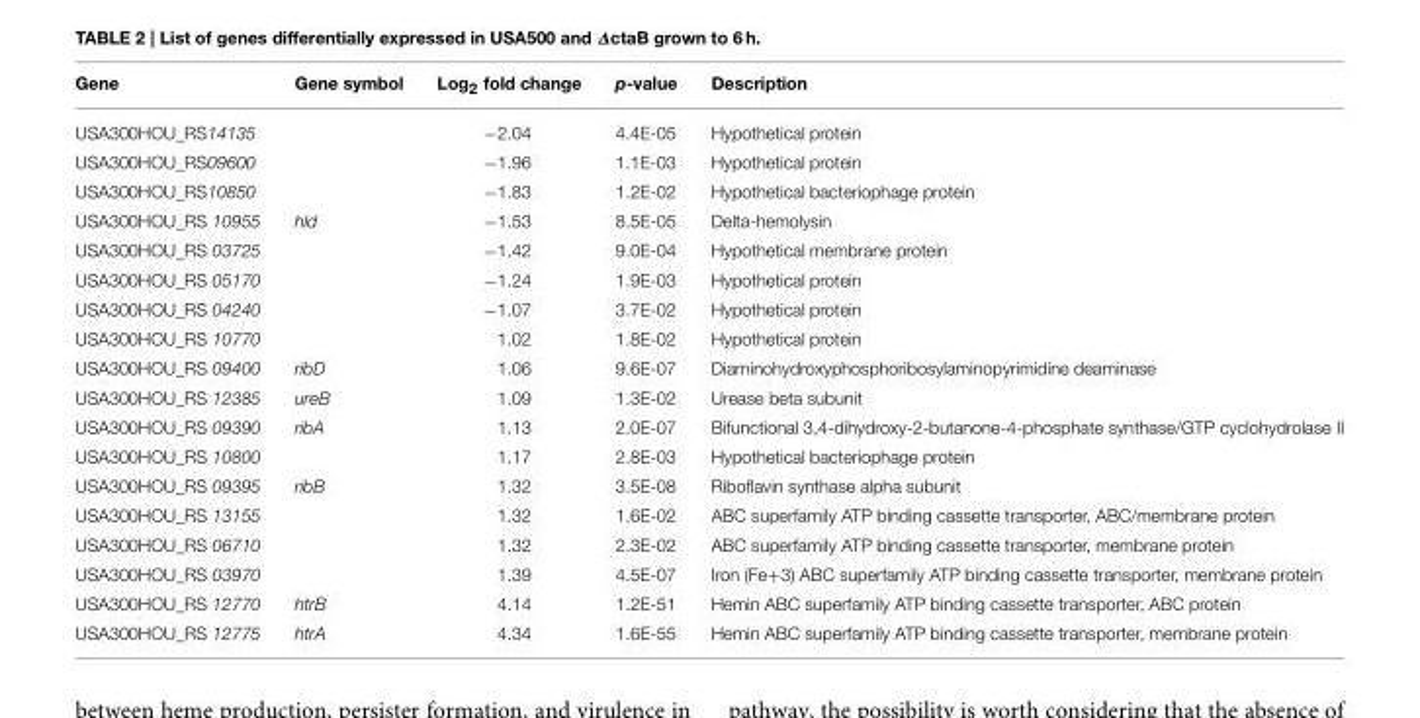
<table><thead><tr><td>Gene</td><td>Gene symbol</td><td>Log<sub>2</sub> fold change</td><td>p-value</td><td>Description</td></tr></thead><tbody><tr><td>USA300HOU_RS14135</td><td></td><td>−2.04</td><td>4.4E-05</td><td>Hypothetical protein</td></tr><tr><td>USA300HOU_RS09600</td><td></td><td>−1.96</td><td>1.1E-03</td><td>Hypothetical protein</td></tr><tr><td>USA300HOU_RS10850</td><td></td><td>−1.83</td><td>1.2E-02</td><td>Hypothetical bacteriophage protein</td></tr><tr><td>USA300HOU_RS 10955</td><td>hld</td><td>−1.53</td><td>8.5E-05</td><td>Delta-hemolysin</td></tr><tr><td>USA300HOU_RS 03725</td><td></td><td>−1.42</td><td>9.0E-04</td><td>Hypothetical membrane protein</td></tr><tr><td>USA300HOU_RS 05170</td><td></td><td>−1.24</td><td>1.9E-03</td><td>Hypothetical protein</td></tr><tr><td>USA300HOU_RS 04240</td><td></td><td>−1.07</td><td>3.7E-02</td><td>Hypothetical protein</td></tr><tr><td>USA300HOU_RS 10770</td><td></td><td>1.02</td><td>1.8E-02</td><td>Hypothetical protein</td></tr><tr><td>USA300HOU_RS 09400</td><td>ribD</td><td>1.06</td><td>9.6E-07</td><td>Diaminohydroxyphosphoribosylaminopyrimidine deaminase</td></tr><tr><td>USA300HOU_RS 12385</td><td>ureB</td><td>1.09</td><td>1.3E-02</td><td>Urease beta subunit</td></tr><tr><td>USA300HOU_RS 09390</td><td>ribA</td><td>1.13</td><td>2.0E-07</td><td>Bifunctional 3,4-dihydroxy-2-butanone-4-phosphate synthase/GTP cyclohydrolase II</td></tr><tr><td>USA300HOU_RS 10800</td><td></td><td>1.17</td><td>2.8E-03</td><td>Hypothetical bacteriophage protein</td></tr><tr><td>USA300HOU_RS 09395</td><td>ribB</td><td>1.32</td><td>3.5E-08</td><td>Riboflavin synthase alpha subunit</td></tr><tr><td>USA300HOU_RS 13155</td><td></td><td>1.32</td><td>1.6E-02</td><td>ABC superfamily ATP binding cassette transporter, ABC/membrane protein</td></tr><tr><td>USA300HOU_RS 06710</td><td></td><td>1.32</td><td>2.3E-02</td><td>ABC superfamily ATP binding cassette transporter, membrane protein</td></tr><tr><td>USA300HOU_RS 03970</td><td></td><td>1.39</td><td>4.5E-07</td><td>Iron (Fe+3) ABC superfamily ATP binding cassette transporter, membrane protein</td></tr><tr><td>USA300HOU_RS 12770</td><td>htrB</td><td>4.14</td><td>1.2E-51</td><td>Hemin ABC superfamily ATP binding cassette transporter, ABC protein</td></tr><tr><td>USA300HOU_RS 12775</td><td>htrA</td><td>4.34</td><td>1.6E-55</td><td>Hemin ABC superfamily ATP binding cassette transporter, membrane protein</td></tr></tbody></table>